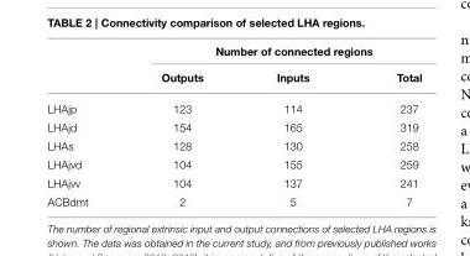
<table><thead><tr><td rowspan="2"></td><td colspan="3">Number of connected regions</td></tr><tr><td>Outputs</td><td>Inputs</td><td>Total</td></tr></thead><tbody><tr><td>LHAjp</td><td>123</td><td>114</td><td>237</td></tr><tr><td>LHAjd</td><td>154</td><td>165</td><td>319</td></tr><tr><td>LHAs</td><td>128</td><td>130</td><td>258</td></tr><tr><td>LHAjvd</td><td>104</td><td>155</td><td>259</td></tr><tr><td>LHAjvv</td><td>104</td><td>137</td><td>241</td></tr><tr><td>ACBdmt</td><td>2</td><td>5</td><td>7</td></tr></tbody></table>